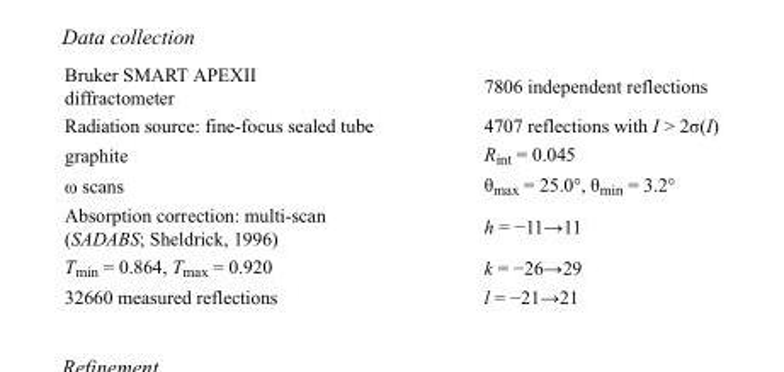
<table><tbody><tr><td>Bruker SMART APEXII diffractometer</td><td>7806 independent reflections</td></tr><tr><td>Radiation source: fine-focus sealed tube</td><td>4707 reflections with I &gt; 2σ(I)</td></tr><tr><td>graphite</td><td>R<sub>int</sub> = 0.045</td></tr><tr><td>ω scans</td><td>θ<sub>max</sub> = 25.0°, θ<sub>min</sub> = 3.2°</td></tr><tr><td>Absorption correction: multi-scan (SADABS; Sheldrick, 1996)</td><td>h = −11→11</td></tr><tr><td>T<sub>min</sub> = 0.864, T<sub>max</sub> = 0.920</td><td>k = −26→29</td></tr><tr><td>32660 measured reflections</td><td>l = −21→21</td></tr></tbody></table>